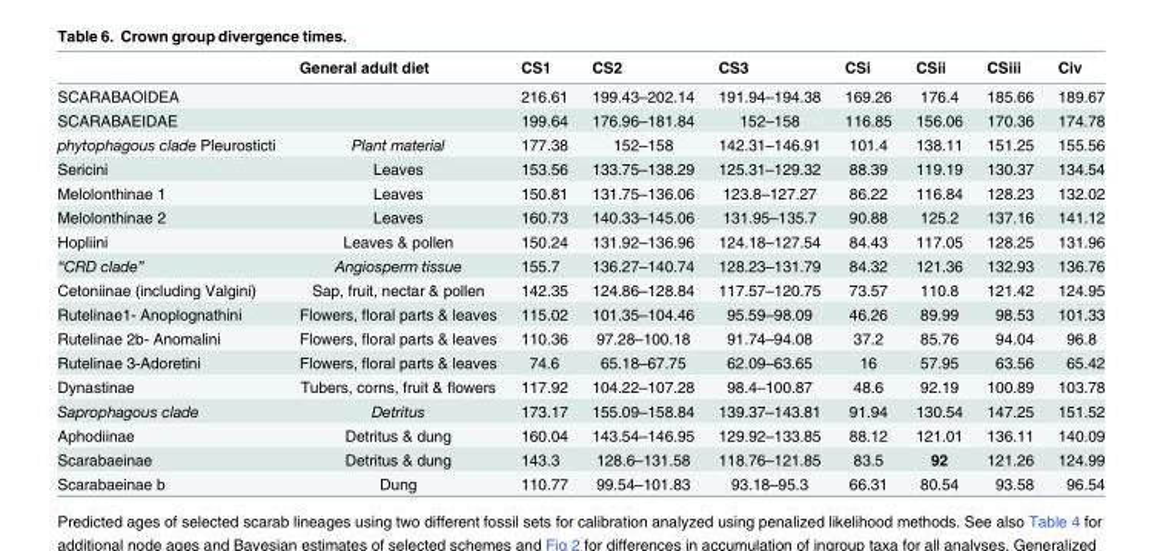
<table><thead><tr><td></td><td>General adult diet</td><td>CS1</td><td>CS2</td><td>CS3</td><td>CSi</td><td>CSii</td><td>CSiii</td><td>Civ</td></tr></thead><tbody><tr><td>SCARABAOIDEA</td><td></td><td>216.61</td><td>199.43–202.14</td><td>191.94–194.38</td><td>169.26</td><td>176.4</td><td>185.66</td><td>189.67</td></tr><tr><td>SCARABAEIDAE</td><td></td><td>199.64</td><td>176.96–181.84</td><td>152–158</td><td>116.85</td><td>156.06</td><td>170.36</td><td>174.78</td></tr><tr><td>phytophagous clade Pleurosticti</td><td>Plant material</td><td>177.38</td><td>152–158</td><td>142.31–146.91</td><td>101.4</td><td>138.11</td><td>151.25</td><td>155.56</td></tr><tr><td>Sericini</td><td>Leaves</td><td>153.56</td><td>133.75–138.29</td><td>125.31–129.32</td><td>88.39</td><td>119.19</td><td>130.37</td><td>134.54</td></tr><tr><td>Melolonthinae 1</td><td>Leaves</td><td>150.81</td><td>131.75–136.06</td><td>123.8–127.27</td><td>86.22</td><td>116.84</td><td>128.23</td><td>132.02</td></tr><tr><td>Melolonthinae 2</td><td>Leaves</td><td>160.73</td><td>140.33–145.06</td><td>131.95–135.7</td><td>90.88</td><td>125.2</td><td>137.16</td><td>141.12</td></tr><tr><td>Hopliini</td><td>Leaves &amp; pollen</td><td>150.24</td><td>131.92–136.96</td><td>124.18–127.54</td><td>84.43</td><td>117.05</td><td>128.25</td><td>131.96</td></tr><tr><td>“CRD clade”</td><td>Angiosperm tissue</td><td>155.7</td><td>136.27–140.74</td><td>128.23–131.79</td><td>84.32</td><td>121.36</td><td>132.93</td><td>136.76</td></tr><tr><td>Cetoniinae (including Valgini)</td><td>Sap, fruit, nectar &amp; pollen</td><td>142.35</td><td>124.86–128.84</td><td>117.57–120.75</td><td>73.57</td><td>110.8</td><td>121.42</td><td>124.95</td></tr><tr><td>Rutelinae1- Anoplognathini</td><td>Flowers, floral parts &amp; leaves</td><td>115.02</td><td>101.35–104.46</td><td>95.59–98.09</td><td>46.26</td><td>89.99</td><td>98.53</td><td>101.33</td></tr><tr><td>Rutelinae 2b- Anomalini</td><td>Flowers, floral parts &amp; leaves</td><td>110.36</td><td>97.28–100.18</td><td>91.74–94.08</td><td>37.2</td><td>85.76</td><td>94.04</td><td>96.8</td></tr><tr><td>Rutelinae 3-Adoretini</td><td>Flowers, floral parts &amp; leaves</td><td>74.6</td><td>65.18–67.75</td><td>62.09–63.65</td><td>16</td><td>57.95</td><td>63.56</td><td>65.42</td></tr><tr><td>Dynastinae</td><td>Tubers, corns, fruit &amp; flowers</td><td>117.92</td><td>104.22–107.28</td><td>98.4–100.87</td><td>48.6</td><td>92.19</td><td>100.89</td><td>103.78</td></tr><tr><td>Saprophagous clade</td><td>Detritus</td><td>173.17</td><td>155.09–158.84</td><td>139.37–143.81</td><td>91.94</td><td>130.54</td><td>147.25</td><td>151.52</td></tr><tr><td>Aphodiinae</td><td>Detritus &amp; dung</td><td>160.04</td><td>143.54–146.95</td><td>129.92–133.85</td><td>88.12</td><td>121.01</td><td>136.11</td><td>140.09</td></tr><tr><td>Scarabaeinae</td><td>Detritus &amp; dung</td><td>143.3</td><td>128.6–131.58</td><td>118.76–121.85</td><td>83.5</td><td>92</td><td>121.26</td><td>124.99</td></tr><tr><td>Scarabaeinae b</td><td>Dung</td><td>110.77</td><td>99.54–101.83</td><td>93.18–95.3</td><td>66.31</td><td>80.54</td><td>93.58</td><td>96.54</td></tr></tbody></table>